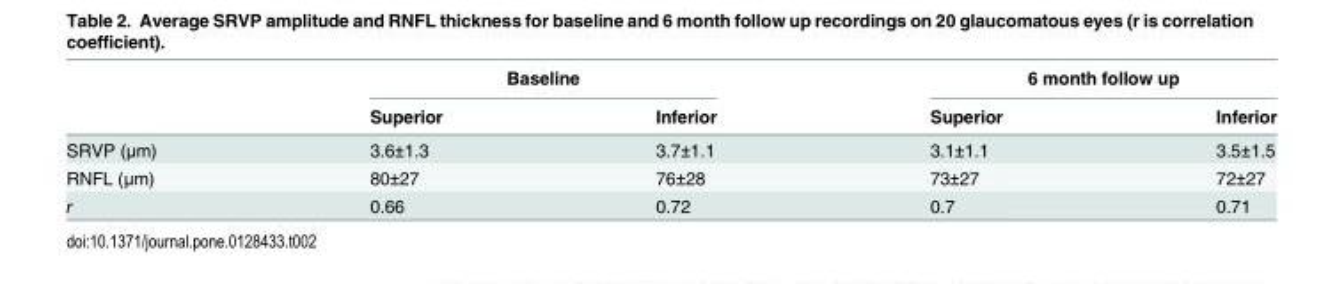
<table><thead><tr><td rowspan="2"></td><td colspan="2">Baseline</td><td colspan="2">6 month follow up</td></tr><tr><td>Superior</td><td>Inferior</td><td>Superior</td><td>Inferior</td></tr></thead><tbody><tr><td>SRVP (μm)</td><td>3.6±1.3</td><td>3.7±1.1</td><td>3.1±1.1</td><td>3.5±1.5</td></tr><tr><td>RNFL (μm)</td><td>80±27</td><td>76±28</td><td>73±27</td><td>72±27</td></tr><tr><td>r</td><td>0.66</td><td>0.72</td><td>0.7</td><td>0.71</td></tr></tbody></table>